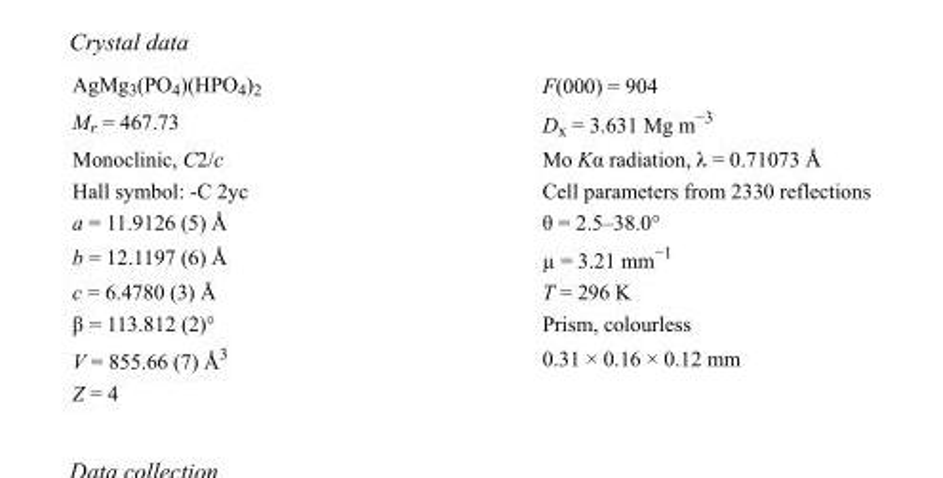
<table><tbody><tr><td>AgMg<sub>3</sub>(PO<sub>4</sub>)(HPO<sub>4</sub>)<sub>2</sub></td><td>F(000) = 904</td></tr><tr><td>M<sub>r</sub> = 467.73</td><td>D<sub>x</sub> = 3.631 Mg m<sup>−3</sup></td></tr><tr><td>Monoclinic, C2/c</td><td>Mo Kα radiation, λ = 0.71073 Å</td></tr><tr><td>Hall symbol: -C 2yc</td><td>Cell parameters from 2330 reflections</td></tr><tr><td>a = 11.9126 (5) Å</td><td>θ = 2.5–38.0°</td></tr><tr><td>b = 12.1197 (6) Å</td><td>µ = 3.21 mm<sup>−1</sup></td></tr><tr><td>c = 6.4780 (3) Å</td><td>T = 296 K</td></tr><tr><td>β = 113.812 (2)°</td><td>Prism, colourless</td></tr><tr><td>V = 855.66 (7) Å<sup>3</sup></td><td>0.31 × 0.16 × 0.12 mm</td></tr><tr><td>Z = 4</td><td></td></tr></tbody></table>